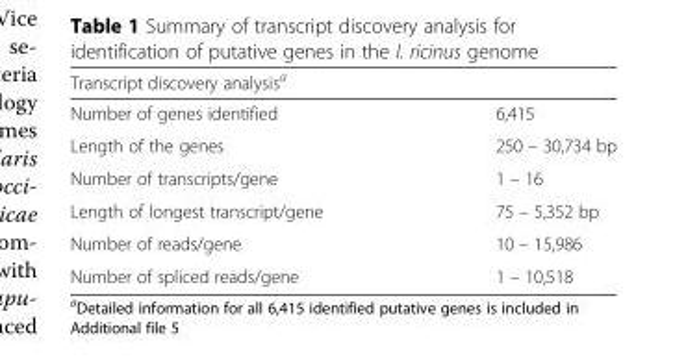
<table><thead><tr><td colspan="2">Transcript discovery analysis<sup>a</sup></td></tr><tr><td>Number of genes identified</td><td>6,415</td></tr></thead><tbody><tr><td>Length of the genes</td><td>250 – 30,734 bp</td></tr><tr><td>Number of transcripts/gene</td><td>1 – 16</td></tr><tr><td>Length of longest transcript/gene</td><td>75 – 5,352 bp</td></tr><tr><td>Number of reads/gene</td><td>10 – 15,986</td></tr><tr><td>Number of spliced reads/gene</td><td>1 – 10,518</td></tr></tbody></table>